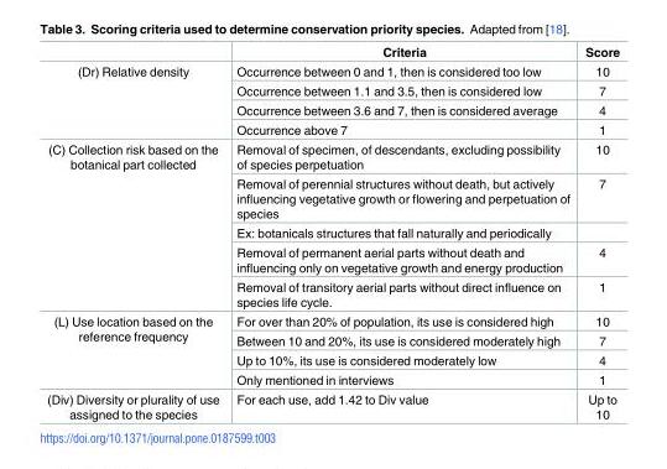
<table><thead><tr><td></td><td>Criteria</td><td>Score</td></tr></thead><tbody><tr><td rowspan="4">(Dr) Relative density</td><td>Occurrence between 0 and 1, then is considered too low</td><td>10</td></tr><tr><td>Occurrence between 1.1 and 3.5, then is considered low</td><td>7</td></tr><tr><td>Occurrence between 3.6 and 7, then is considered average</td><td>4</td></tr><tr><td>Occurrence above 7</td><td>1</td></tr><tr><td rowspan="5">(C) Collection risk based on the botanical part collected</td><td>Removal of specimen, of descendants, excluding possibility of species perpetuation</td><td>10</td></tr><tr><td>Removal of perennial structures without death, but actively influencing vegetative growth or flowering and perpetuation of species</td><td>7</td></tr><tr><td>Ex: botanicals structures that fall naturally and periodically</td><td></td></tr><tr><td>Removal of permanent aerial parts without death and influencing only on vegetative growth and energy production</td><td>4</td></tr><tr><td>Removal of transitory aerial parts without direct influence on species life cycle.</td><td>1</td></tr><tr><td rowspan="4">(L) Use location based on the reference frequency</td><td>For over than 20% of population, its use is considered high</td><td>10</td></tr><tr><td>Between 10 and 20%, its use is considered moderately high</td><td>7</td></tr><tr><td>Up to 10%, its use is considered moderately low</td><td>4</td></tr><tr><td>Only mentioned in interviews</td><td>1</td></tr><tr><td>(Div) Diversity or plurality of use assigned to the species</td><td>For each use, add 1.42 to Div value</td><td>Up to 10</td></tr></tbody></table>